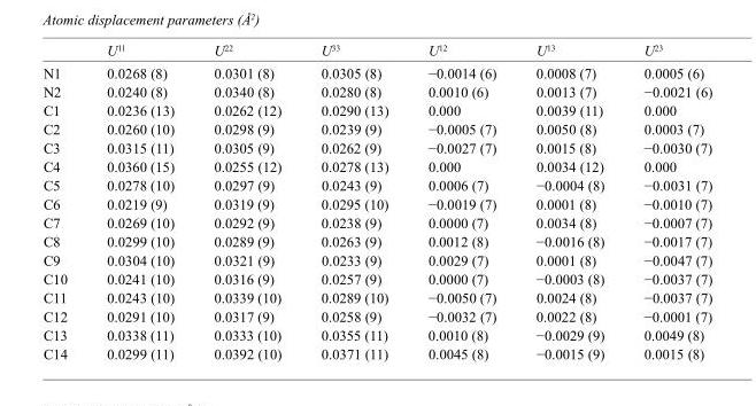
<table><thead><tr><td></td><td>U<sup>11</sup></td><td>U<sup>22</sup></td><td>U<sup>33</sup></td><td>U<sup>12</sup></td><td>U<sup>13</sup></td><td>U<sup>23</sup></td></tr></thead><tbody><tr><td>N1</td><td>0.0268 (8)</td><td>0.0301 (8)</td><td>0.0305 (8)</td><td>−0.0014 (6)</td><td>0.0008 (7)</td><td>0.0005 (6)</td></tr><tr><td>N2</td><td>0.0240 (8)</td><td>0.0340 (8)</td><td>0.0280 (8)</td><td>0.0010 (6)</td><td>0.0013 (7)</td><td>−0.0021 (6)</td></tr><tr><td>C1</td><td>0.0236 (13)</td><td>0.0262 (12)</td><td>0.0290 (13)</td><td>0.000</td><td>0.0039 (11)</td><td>0.000</td></tr><tr><td>C2</td><td>0.0260 (10)</td><td>0.0298 (9)</td><td>0.0239 (9)</td><td>−0.0005 (7)</td><td>0.0050 (8)</td><td>0.0003 (7)</td></tr><tr><td>C3</td><td>0.0315 (11)</td><td>0.0305 (9)</td><td>0.0262 (9)</td><td>−0.0027 (7)</td><td>0.0015 (8)</td><td>−0.0030 (7)</td></tr><tr><td>C4</td><td>0.0360 (15)</td><td>0.0255 (12)</td><td>0.0278 (13)</td><td>0.000</td><td>0.0034 (12)</td><td>0.000</td></tr><tr><td>C5</td><td>0.0278 (10)</td><td>0.0297 (9)</td><td>0.0243 (9)</td><td>0.0006 (7)</td><td>−0.0004 (8)</td><td>−0.0031 (7)</td></tr><tr><td>C6</td><td>0.0219 (9)</td><td>0.0319 (9)</td><td>0.0295 (10)</td><td>−0.0019 (7)</td><td>0.0001 (8)</td><td>−0.0010 (7)</td></tr><tr><td>C7</td><td>0.0269 (10)</td><td>0.0292 (9)</td><td>0.0238 (9)</td><td>0.0000 (7)</td><td>0.0034 (8)</td><td>−0.0007 (7)</td></tr><tr><td>C8</td><td>0.0299 (10)</td><td>0.0289 (9)</td><td>0.0263 (9)</td><td>0.0012 (8)</td><td>−0.0016 (8)</td><td>−0.0017 (7)</td></tr><tr><td>C9</td><td>0.0304 (10)</td><td>0.0321 (9)</td><td>0.0233 (9)</td><td>0.0029 (7)</td><td>0.0001 (8)</td><td>−0.0047 (7)</td></tr><tr><td>C10</td><td>0.0241 (10)</td><td>0.0316 (9)</td><td>0.0257 (9)</td><td>0.0000 (7)</td><td>−0.0003 (8)</td><td>−0.0037 (7)</td></tr><tr><td>C11</td><td>0.0243 (10)</td><td>0.0339 (10)</td><td>0.0289 (10)</td><td>−0.0050 (7)</td><td>0.0024 (8)</td><td>−0.0037 (7)</td></tr><tr><td>C12</td><td>0.0291 (10)</td><td>0.0317 (9)</td><td>0.0258 (9)</td><td>−0.0032 (7)</td><td>0.0022 (8)</td><td>−0.0001 (7)</td></tr><tr><td>C13</td><td>0.0338 (11)</td><td>0.0333 (10)</td><td>0.0355 (11)</td><td>0.0010 (8)</td><td>−0.0029 (9)</td><td>0.0049 (8)</td></tr><tr><td>C14</td><td>0.0299 (11)</td><td>0.0392 (10)</td><td>0.0371 (11)</td><td>0.0045 (8)</td><td>−0.0015 (9)</td><td>0.0015 (8)</td></tr></tbody></table>